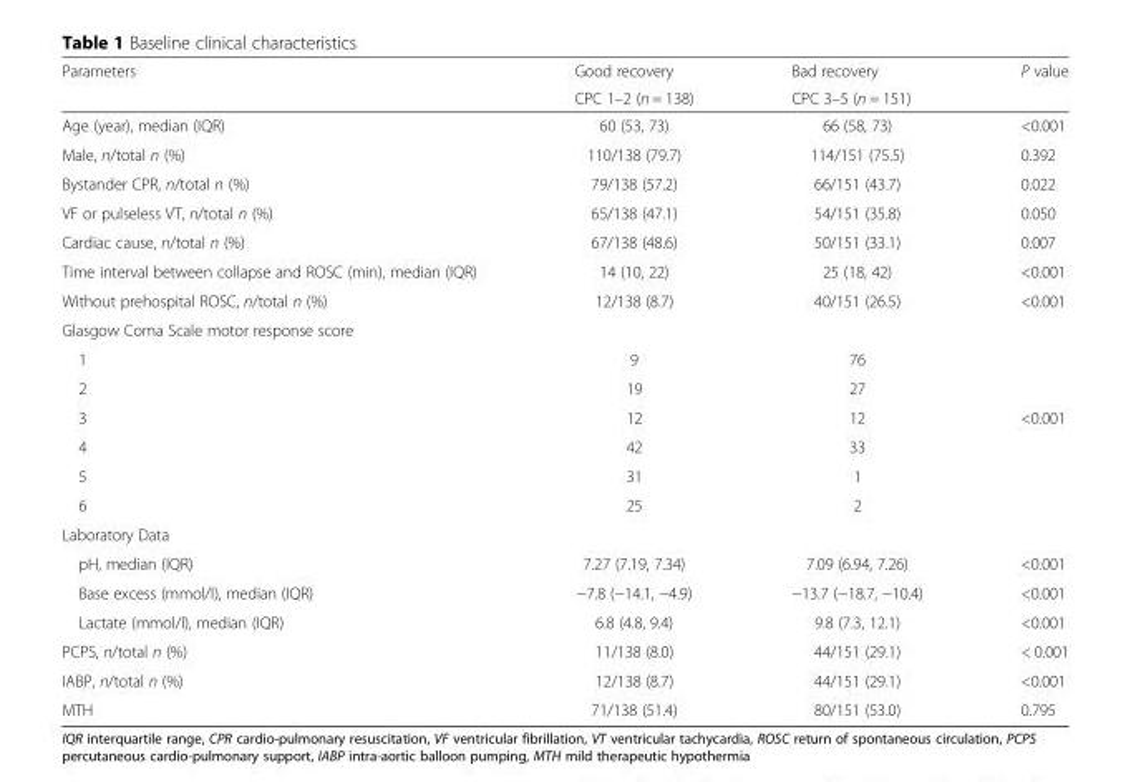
<table><thead><tr><td rowspan="2">Parameters</td><td rowspan="2">Good recovery CPC 1–2 (n = 138)</td><td rowspan="2">Bad recovery CPC 3–5 (n = 151)</td><td rowspan="2">P value</td></tr><tr></tr></thead><tbody><tr><td>Age (year), median (IQR)</td><td>60 (53, 73)</td><td>66 (58, 73)</td><td>&lt;0.001</td></tr><tr><td>Male, n/total n (%)</td><td>110/138 (79.7)</td><td>114/151 (75.5)</td><td>0.392</td></tr><tr><td>Bystander CPR, n/total n (%)</td><td>79/138 (57.2)</td><td>66/151 (43.7)</td><td>0.022</td></tr><tr><td>VF or pulseless VT, n/total n (%)</td><td>65/138 (47.1)</td><td>54/151 (35.8)</td><td>0.050</td></tr><tr><td>Cardiac cause, n/total n (%)</td><td>67/138 (48.6)</td><td>50/151 (33.1)</td><td>0.007</td></tr><tr><td>Time interval between collapse and ROSC (min), median (IQR)</td><td>14 (10, 22)</td><td>25 (18, 42)</td><td>&lt;0.001</td></tr><tr><td>Without prehospital ROSC, n/total n (%)</td><td>12/138 (8.7)</td><td>40/151 (26.5)</td><td>&lt;0.001</td></tr><tr><td colspan="4">Glasgow Coma Scale motor response score</td></tr><tr><td>1</td><td>9</td><td>76</td><td></td></tr><tr><td>2</td><td>19</td><td>27</td><td></td></tr><tr><td>3</td><td>12</td><td>12</td><td>&lt;0.001</td></tr><tr><td>4</td><td>42</td><td>33</td><td></td></tr><tr><td>5</td><td>31</td><td>1</td><td></td></tr><tr><td>6</td><td>25</td><td>2</td><td></td></tr><tr><td colspan="4">Laboratory Data</td></tr><tr><td>pH, median (IQR)</td><td>7.27 (7.19, 7.34)</td><td>7.09 (6.94, 7.26)</td><td>&lt;0.001</td></tr><tr><td>Base excess (mmol/l), median (IQR)</td><td>−7.8 (−14.1, −4.9)</td><td>−13.7 (−18.7, −10.4)</td><td>&lt;0.001</td></tr><tr><td>Lactate (mmol/l), median (IQR)</td><td>6.8 (4.8, 9.4)</td><td>9.8 (7.3, 12.1)</td><td>&lt;0.001</td></tr><tr><td>PCPS, n/total n (%)</td><td>11/138 (8.0)</td><td>44/151 (29.1)</td><td>&lt; 0.001</td></tr><tr><td>IABP, n/total n (%)</td><td>12/138 (8.7)</td><td>44/151 (29.1)</td><td>&lt;0.001</td></tr><tr><td>MTH</td><td>71/138 (51.4)</td><td>80/151 (53.0)</td><td>0.795</td></tr></tbody></table>